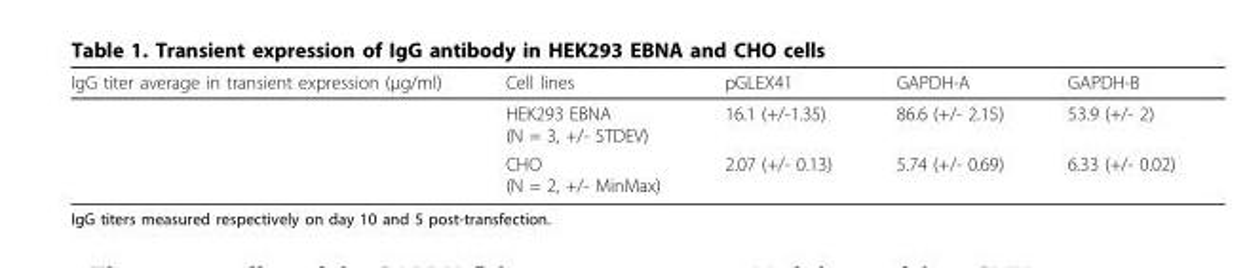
<table><thead><tr><td>IgG titer average in transient expression (μg/ml)</td><td>Cell lines</td><td>pGLEX41</td><td>GAPDH-A</td><td>GAPDH-B</td></tr></thead><tbody><tr><td></td><td>HEK293 EBNA (N = 3, +/- STDEV)</td><td>16.1 (+/-1.35)</td><td>86.6 (+/- 2.15)</td><td>53.9 (+/- 2)</td></tr><tr><td></td><td>CHO (N = 2, +/- MinMax)</td><td>2.07 (+/- 0.13)</td><td>5.74 (+/- 0.69)</td><td>6.33 (+/- 0.02)</td></tr></tbody></table>